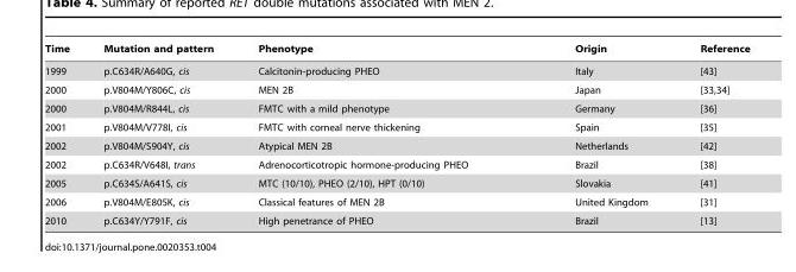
<table><thead><tr><td>Time</td><td>Mutation and pattern</td><td>Phenotype</td><td>Origin</td><td>Reference</td></tr></thead><tbody><tr><td>1999</td><td>p.C634R/A640G, cis</td><td>Calcitonin-producing PHEO</td><td>Italy</td><td>[43]</td></tr><tr><td>2000</td><td>p.V804M/Y806C, cis</td><td>MEN 2B</td><td>Japan</td><td>[33,34]</td></tr><tr><td>2000</td><td>p.V804M/R844L, cis</td><td>FMTC with a mild phenotype</td><td>Germany</td><td>[36]</td></tr><tr><td>2001</td><td>p.V804M/V778I, cis</td><td>FMTC with corneal nerve thickening</td><td>Spain</td><td>[35]</td></tr><tr><td>2002</td><td>p.V804M/S904Y, cis</td><td>Atypical MEN 2B</td><td>Netherlands</td><td>[42]</td></tr><tr><td>2002</td><td>p.C634R/V648I, trans</td><td>Adrenocorticotropic hormone-producing PHEO</td><td>Brazil</td><td>[38]</td></tr><tr><td>2005</td><td>p.C634S/A641S, cis</td><td>MTC (10/10), PHEO (2/10), HPT (0/10)</td><td>Slovakia</td><td>[41]</td></tr><tr><td>2006</td><td>p.V804M/E805K, cis</td><td>Classical features of MEN 2B</td><td>United Kingdom</td><td>[31]</td></tr><tr><td>2010</td><td>p.C634Y/Y791F, cis</td><td>High penetrance of PHEO</td><td>Brazil</td><td>[13]</td></tr></tbody></table>